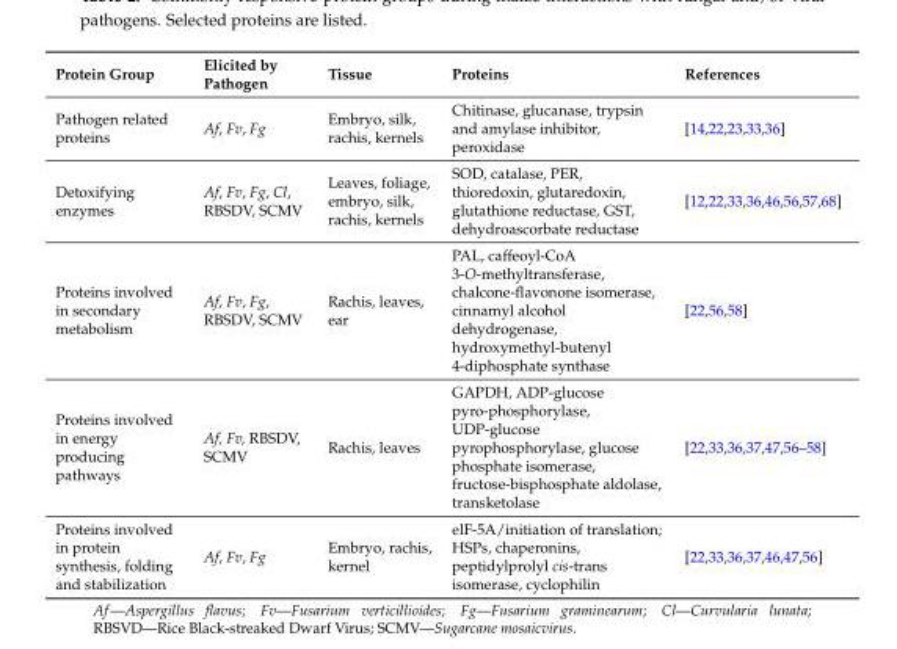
<table><thead><tr><td>Protein Group</td><td>Elicited by Pathogen</td><td>Tissue</td><td>Proteins</td><td>References</td></tr></thead><tbody><tr><td>Pathogen related proteins</td><td>Af, Fv, Fg</td><td>Embryo, silk, rachis, kernels</td><td>Chitinase, glucanase, trypsin and amylase inhibitor, peroxidase</td><td>[14,22,23,33,36]</td></tr><tr><td>Detoxifying enzymes</td><td>Af, Fv, Fg, Cl, RBSDV, SCMV</td><td>Leaves, foliage, embryo, silk, rachis, kernels</td><td>SOD, catalase, PER, thioredoxin, glutaredoxin, glutathione reductase, GST, dehydroascorbate reductase</td><td>[12,22,33,36,46,56,57,68]</td></tr><tr><td>Proteins involved in secondary metabolism</td><td>Af, Fv, Fg, RBSDV, SCMV</td><td>Rachis, leaves, ear</td><td>PAL, caffeoyl-CoA 3-O-methyltransferase, chalcone-flavonone isomerase, cinnamyl alcohol dehydrogenase, hydroxymethyl-butenyl 4-diphosphate synthase</td><td>[22,56,58]</td></tr><tr><td>Proteins involved in energy producing pathways</td><td>Af, Fv, RBSDV, SCMV</td><td>Rachis, leaves</td><td>GAPDH, ADP-glucose pyro-phosphorylase, UDP-glucose pyrophosphorylase, glucose phosphate isomerase, fructose-bisphosphate aldolase, transketolase</td><td>[22,33,36,37,47,56–58]</td></tr><tr><td>Proteins involved in protein synthesis, folding and stabilization</td><td>Af, Fv, Fg</td><td>Embryo, rachis, kernel</td><td>elF-5A/initiation of translation; HSPs, chaperonins, peptidylprolyl cis-trans isomerase, cyclophilin</td><td>[22,33,36,37,46,47,56]</td></tr></tbody></table>